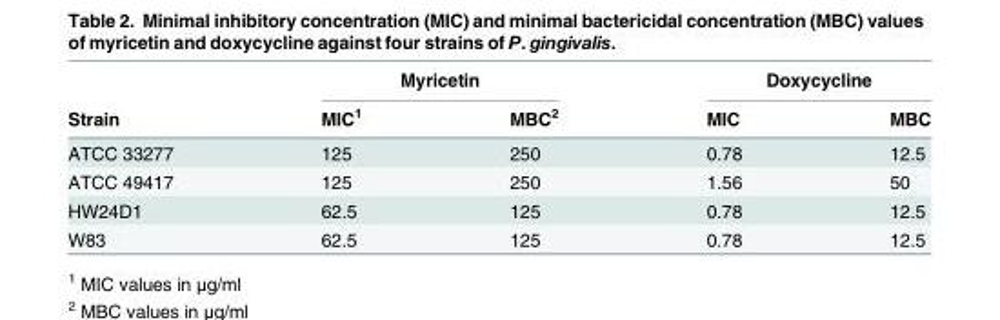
<table><thead><tr><td rowspan="2">Strain</td><td colspan="2">Myricetin</td><td colspan="2">Doxycycline</td></tr><tr><td>MIC<sup>1</sup></td><td>MBC<sup>2</sup></td><td>MIC</td><td>MBC</td></tr></thead><tbody><tr><td>ATCC 33277</td><td>125</td><td>250</td><td>0.78</td><td>12.5</td></tr><tr><td>ATCC 49417</td><td>125</td><td>250</td><td>1.56</td><td>50</td></tr><tr><td>HW24D1</td><td>62.5</td><td>125</td><td>0.78</td><td>12.5</td></tr><tr><td>W83</td><td>62.5</td><td>125</td><td>0.78</td><td>12.5</td></tr></tbody></table>